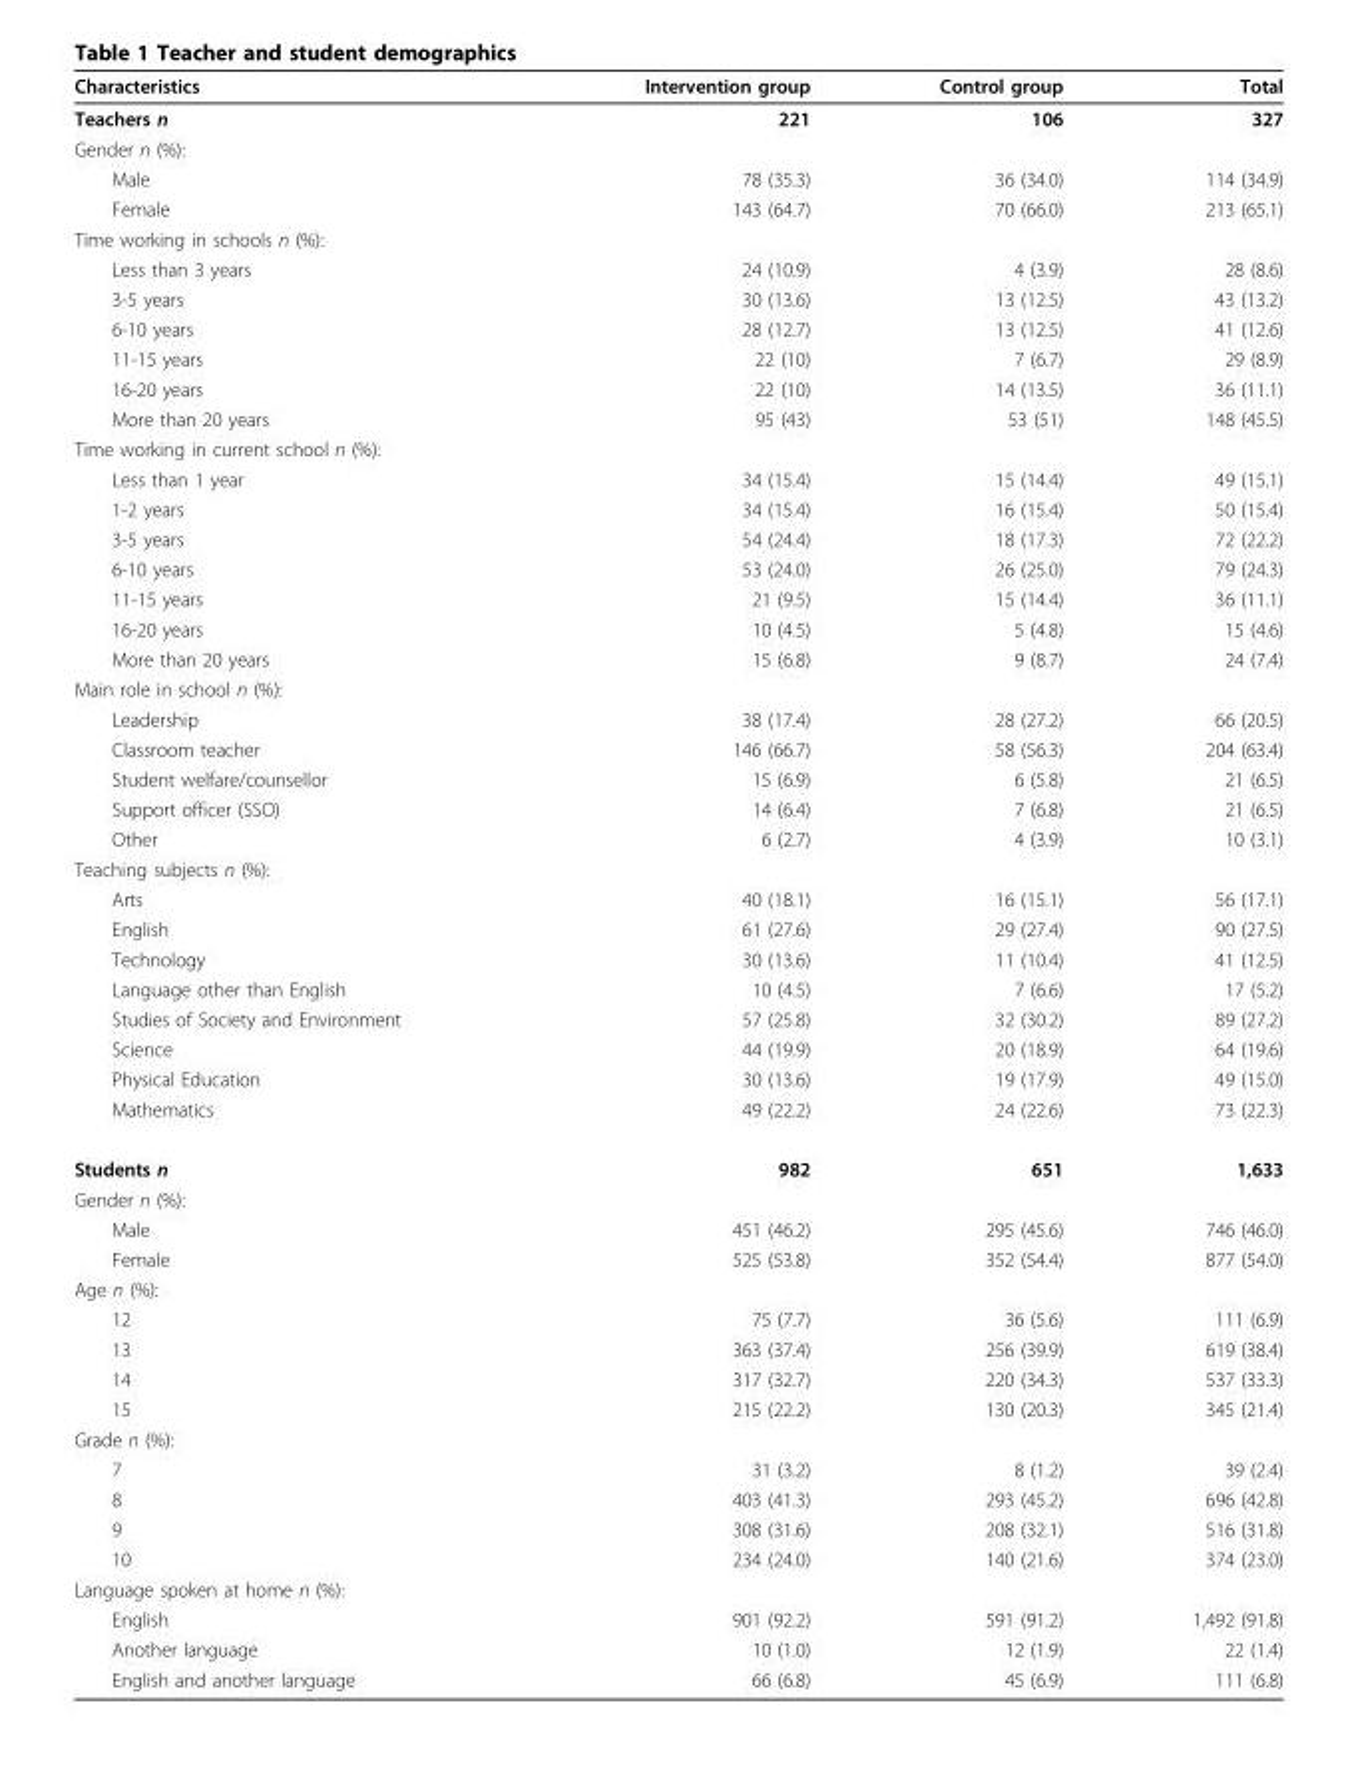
<table><thead><tr><td>Characteristics</td><td>Intervention group</td><td>Control group</td><td>Total</td></tr></thead><tbody><tr><td>Teachers n</td><td>221</td><td>106</td><td>327</td></tr><tr><td colspan="4">Gender n (%):</td></tr><tr><td>Male</td><td>78 (35.3)</td><td>36 (34.0)</td><td>114 (34.9)</td></tr><tr><td>Female</td><td>143 (64.7)</td><td>70 (66.0)</td><td>213 (65.1)</td></tr><tr><td colspan="4">Time working in schools n (%):</td></tr><tr><td>Less than 3 years</td><td>24 (10.9)</td><td>4 (3.9)</td><td>28 (8.6)</td></tr><tr><td>3-5 years</td><td>30 (13.6)</td><td>13 (12.5)</td><td>43 (13.2)</td></tr><tr><td>6-10 years</td><td>28 (12.7)</td><td>13 (12.5)</td><td>41 (12.6)</td></tr><tr><td>11-15 years</td><td>22 (10)</td><td>7 (6.7)</td><td>29 (8.9)</td></tr><tr><td>16-20 years</td><td>22 (10)</td><td>14 (13.5)</td><td>36 (11.1)</td></tr><tr><td>More than 20 years</td><td>95 (43)</td><td>53 (51)</td><td>148 (45.5)</td></tr><tr><td colspan="4">Time working in current school n (%):</td></tr><tr><td>Less than 1 year</td><td>34 (15.4)</td><td>15 (14.4)</td><td>49 (15.1)</td></tr><tr><td>1-2 years</td><td>34 (15.4)</td><td>16 (15.4)</td><td>50 (15.4)</td></tr><tr><td>3-5 years</td><td>54 (24.4)</td><td>18 (17.3)</td><td>72 (22.2)</td></tr><tr><td>6-10 years</td><td>53 (24.0)</td><td>26 (25.0)</td><td>79 (24.3)</td></tr><tr><td>11-15 years</td><td>21 (9.5)</td><td>15 (14.4)</td><td>36 (11.1)</td></tr><tr><td>16-20 years</td><td>10 (4.5)</td><td>5 (4.8)</td><td>15 (4.6)</td></tr><tr><td>More than 20 years</td><td>15 (6.8)</td><td>9 (8.7)</td><td>24 (7.4)</td></tr><tr><td colspan="4">Main role in school n (%):</td></tr><tr><td>Leadership</td><td>38 (17.4)</td><td>28 (27.2)</td><td>66 (20.5)</td></tr><tr><td>Classroom teacher</td><td>146 (66.7)</td><td>58 (56.3)</td><td>204 (63.4)</td></tr><tr><td>Student welfare/counsellor</td><td>15 (6.9)</td><td>6 (5.8)</td><td>21 (6.5)</td></tr><tr><td>Support officer (SSO)</td><td>14 (6.4)</td><td>7 (6.8)</td><td>21 (6.5)</td></tr><tr><td>Other</td><td>6 (2.7)</td><td>4 (3.9)</td><td>10 (3.1)</td></tr><tr><td colspan="4">Teaching subjects n (%):</td></tr><tr><td>Arts</td><td>40 (18.1)</td><td>16 (15.1)</td><td>56 (17.1)</td></tr><tr><td>English</td><td>61 (27.6)</td><td>29 (27.4)</td><td>90 (27.5)</td></tr><tr><td>Technology</td><td>30 (13.6)</td><td>11 (10.4)</td><td>41 (12.5)</td></tr><tr><td>Language other than English</td><td>10 (4.5)</td><td>7 (6.6)</td><td>17 (5.2)</td></tr><tr><td>Studies of Society and Environment</td><td>57 (25.8)</td><td>32 (30.2)</td><td>89 (27.2)</td></tr><tr><td>Science</td><td>44 (19.9)</td><td>20 (18.9)</td><td>64 (19.6)</td></tr><tr><td>Physical Education</td><td>30 (13.6)</td><td>19 (17.9)</td><td>49 (15.0)</td></tr><tr><td>Mathematics</td><td>49 (22.2)</td><td>24 (22.6)</td><td>73 (22.3)</td></tr><tr><td>Students n</td><td>982</td><td>651</td><td>1,633</td></tr><tr><td colspan="4">Gender n (%):</td></tr><tr><td>Male</td><td>451 (46.2)</td><td>295 (45.6)</td><td>746 (46.0)</td></tr><tr><td>Female</td><td>525 (53.8)</td><td>352 (54.4)</td><td>877 (54.0)</td></tr><tr><td colspan="4">Age n (%):</td></tr><tr><td>12</td><td>75 (7.7)</td><td>36 (5.6)</td><td>111 (6.9)</td></tr><tr><td>13</td><td>363 (37.4)</td><td>256 (39.9)</td><td>619 (38.4)</td></tr><tr><td>14</td><td>317 (32.7)</td><td>220 (34.3)</td><td>537 (33.3)</td></tr><tr><td>15</td><td>215 (22.2)</td><td>130 (20.3)</td><td>345 (21.4)</td></tr><tr><td colspan="4">Grade n (%):</td></tr><tr><td>7</td><td>31 (3.2)</td><td>8 (1.2)</td><td>39 (2.4)</td></tr><tr><td>8</td><td>403 (41.3)</td><td>293 (45.2)</td><td>696 (42.8)</td></tr><tr><td>9</td><td>308 (31.6)</td><td>208 (32.1)</td><td>516 (31.8)</td></tr><tr><td>10</td><td>234 (24.0)</td><td>140 (21.6)</td><td>374 (23.0)</td></tr><tr><td colspan="4">Language spoken at home n (%):</td></tr><tr><td>English</td><td>901 (92.2)</td><td>591 (91.2)</td><td>1,492 (91.8)</td></tr><tr><td>Another language</td><td>10 (1.0)</td><td>12 (1.9)</td><td>22 (1.4)</td></tr><tr><td>English and another language</td><td>66 (6.8)</td><td>45 (6.9)</td><td>111 (6.8)</td></tr></tbody></table>